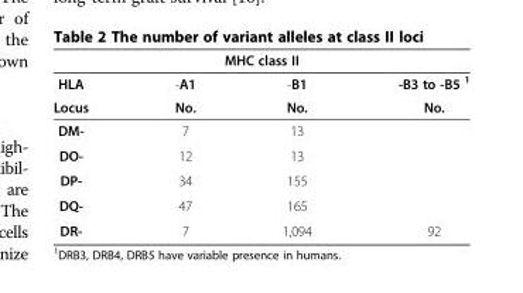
<table><thead><tr><td colspan="4">MHC class II</td></tr><tr><td rowspan="2">HLA Locus</td><td rowspan="2">-A1 No.</td><td rowspan="2">-B1 No.</td><td rowspan="2">-B3 to -B5 <sup>1</sup> No.</td></tr><tr></tr></thead><tbody><tr><td>DM-</td><td>7</td><td>13</td><td></td></tr><tr><td>DO-</td><td>12</td><td>13</td><td></td></tr><tr><td>DP-</td><td>34</td><td>155</td><td></td></tr><tr><td>DQ-</td><td>47</td><td>165</td><td></td></tr><tr><td>DR-</td><td>7</td><td>1,094</td><td>92</td></tr></tbody></table>